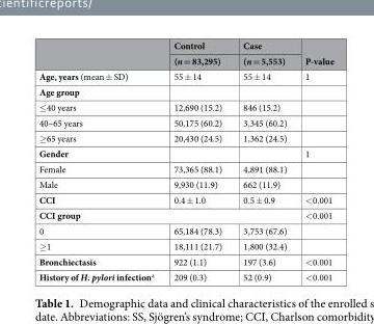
<table><thead><tr><td rowspan="2"></td><td rowspan="2">Control (n = 83,295)</td><td rowspan="2">Case (n = 5,553)</td><td rowspan="2">P-value</td></tr><tr></tr></thead><tbody><tr><td>Age, years (mean ± SD)</td><td>55 ± 14</td><td>55 ± 14</td><td>1</td></tr><tr><td colspan="4">Age group</td></tr><tr><td>≤40 years</td><td>12,690 (15.2)</td><td>846 (15.2)</td><td></td></tr><tr><td>40–65 years</td><td>50,175 (60.2)</td><td>3,345 (60.2)</td><td></td></tr><tr><td>≥65 years</td><td>20,430 (24.5)</td><td>1,362 (24.5)</td><td></td></tr><tr><td>Gender</td><td></td><td></td><td>1</td></tr><tr><td>Female</td><td>73,365 (88.1)</td><td>4,891 (88.1)</td><td></td></tr><tr><td>Male</td><td>9,930 (11.9)</td><td>662 (11.9)</td><td></td></tr><tr><td>CCI</td><td>0.4 ± 1.0</td><td>0.5 ± 0.9</td><td>&lt;0.001</td></tr><tr><td colspan="3">CCI group</td><td>&lt;0.001</td></tr><tr><td>0</td><td>65,184 (78.3)</td><td>3,753 (67.6)</td><td></td></tr><tr><td>≥1</td><td>18,111 (21.7)</td><td>1,800 (32.4)</td><td></td></tr><tr><td>Bronchiectasis</td><td>922 (1.1)</td><td>197 (3.6)</td><td>&lt;0.001</td></tr><tr><td>History of H. pylori infection<sup>a</sup></td><td>209 (0.3)</td><td>52 (0.9)</td><td>&lt;0.001</td></tr></tbody></table>